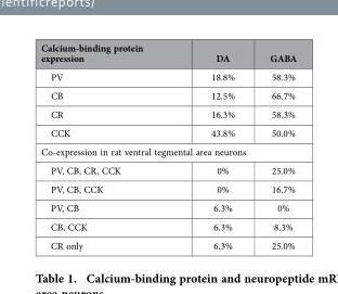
<table><thead><tr><td>Calcium-binding protein expression</td><td>DA</td><td>GABA</td></tr></thead><tbody><tr><td>PV</td><td>18.8%</td><td>58.3%</td></tr><tr><td>CB</td><td>12.5%</td><td>66.7%</td></tr><tr><td>CR</td><td>16.3%</td><td>58.3%</td></tr><tr><td>CCK</td><td>43.8%</td><td>50.0%</td></tr><tr><td colspan="3">Co-expression in rat ventral tegmental area neurons</td></tr><tr><td>PV, CB, CR, CCK</td><td>0%</td><td>25.0%</td></tr><tr><td>PV, CB, CCK</td><td>0%</td><td>16.7%</td></tr><tr><td>PV, CB</td><td>6.3%</td><td>0%</td></tr><tr><td>CB, CCK</td><td>6.3%</td><td>8.3%</td></tr><tr><td>CR only</td><td>6.3%</td><td>25.0%</td></tr></tbody></table>